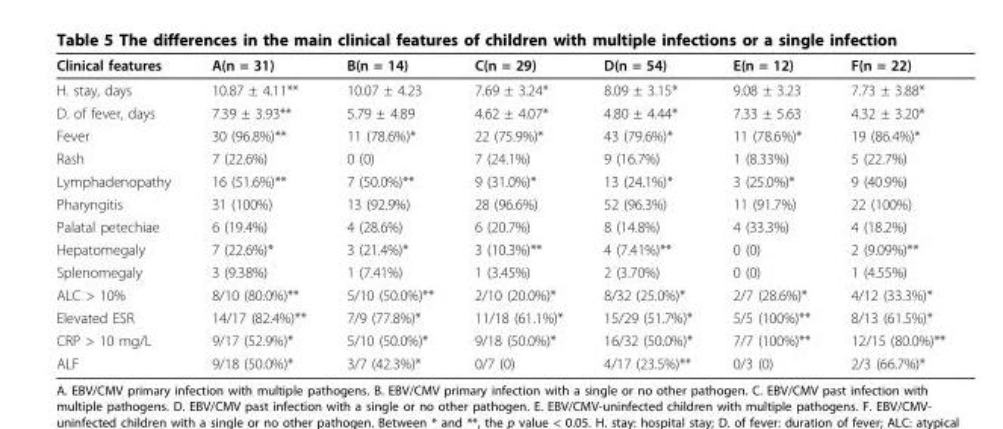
<table><thead><tr><td>Clinical features</td><td>A(n = 31)</td><td>B(n = 14)</td><td>C(n = 29)</td><td>D(n = 54)</td><td>E(n = 12)</td><td>F(n = 22)</td></tr></thead><tbody><tr><td>H. stay, days</td><td>10.87 ± 4.11**</td><td>10.07 ± 4.23</td><td>7.69 ± 3.24*</td><td>8.09 ± 3.15*</td><td>9.08 ± 3.23</td><td>7.73 ± 3.88*</td></tr><tr><td>D. of fever, days</td><td>7.39 ± 3.93**</td><td>5.79 ± 4.89</td><td>4.62 ± 4.07*</td><td>4.80 ± 4.44*</td><td>7.33 ± 5.63</td><td>4.32 ± 3.20*</td></tr><tr><td>Fever</td><td>30 (96.8%)**</td><td>11 (78.6%)*</td><td>22 (75.9%)*</td><td>43 (79.6%)*</td><td>11 (78.6%)*</td><td>19 (86.4%)*</td></tr><tr><td>Rash</td><td>7 (22.6%)</td><td>0 (0)</td><td>7 (24.1%)</td><td>9 (16.7%)</td><td>1 (8.33%)</td><td>5 (22.7%)</td></tr><tr><td>Lymphadenopathy</td><td>16 (51.6%)**</td><td>7 (50.0%)**</td><td>9 (31.0%)*</td><td>13 (24.1%)*</td><td>3 (25.0%)*</td><td>9 (40.9%)</td></tr><tr><td>Pharyngitis</td><td>31 (100%)</td><td>13 (92.9%)</td><td>28 (96.6%)</td><td>52 (96.3%)</td><td>11 (91.7%)</td><td>22 (100%)</td></tr><tr><td>Palatal petechiae</td><td>6 (19.4%)</td><td>4 (28.6%)</td><td>6 (20.7%)</td><td>8 (14.8%)</td><td>4 (33.3%)</td><td>4 (18.2%)</td></tr><tr><td>Hepatomegaly</td><td>7 (22.6%)*</td><td>3 (21.4%)*</td><td>3 (10.3%)**</td><td>4 (7.41%)**</td><td>0 (0)</td><td>2 (9.09%)**</td></tr><tr><td>Splenomegaly</td><td>3 (9.38%)</td><td>1 (7.41%)</td><td>1 (3.45%)</td><td>2 (3.70%)</td><td>0 (0)</td><td>1 (4.55%)</td></tr><tr><td>ALC &gt; 10%</td><td>8/10 (80.0%)**</td><td>5/10 (50.0%)**</td><td>2/10 (20.0%)*</td><td>8/32 (25.0%)*</td><td>2/7 (28.6%)*</td><td>4/12 (33.3%)*</td></tr><tr><td>Elevated ESR</td><td>14/17 (82.4%)**</td><td>7/9 (77.8%)*</td><td>11/18 (61.1%)*</td><td>15/29 (51.7%)*</td><td>5/5 (100%)**</td><td>8/13 (61.5%)*</td></tr><tr><td>CRP &gt; 10 mg/L</td><td>9/17 (52.9%)*</td><td>5/10 (50.0%)*</td><td>9/18 (50.0%)*</td><td>16/32 (50.0%)*</td><td>7/7 (100%)**</td><td>12/15 (80.0%)**</td></tr><tr><td>ALF</td><td>9/18 (50.0%)*</td><td>3/7 (42.3%)*</td><td>0/7 (0)</td><td>4/17 (23.5%)**</td><td>0/3 (0)</td><td>2/3 (66.7%)*</td></tr></tbody></table>